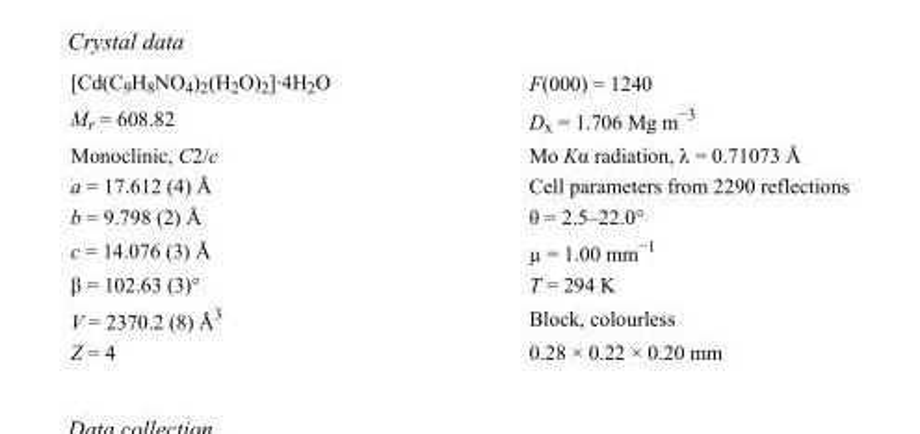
<table><tbody><tr><td>[Cd(C<sub>9</sub>H<sub>8</sub>NO<sub>4</sub>)<sub>2</sub>(H<sub>2</sub>O)<sub>2</sub>]·4H<sub>2</sub>O</td><td>F(000) = 1240</td></tr><tr><td>M<sub>r</sub> = 608.82</td><td>D<sub>x</sub> = 1.706 Mg m<sup>−3</sup></td></tr><tr><td>Monoclinic, C2/c</td><td>Mo Kα radiation, λ = 0.71073 Å</td></tr><tr><td>a = 17.612 (4) Å</td><td>Cell parameters from 2290 reflections</td></tr><tr><td>b = 9.798 (2) Å</td><td>θ = 2.5–22.0°</td></tr><tr><td>c = 14.076 (3) Å</td><td>µ = 1.00 mm<sup>−1</sup></td></tr><tr><td>β = 102.63 (3)°</td><td>T = 294 K</td></tr><tr><td>V = 2370.2 (8) Å<sup>3</sup></td><td>Block, colourless</td></tr><tr><td>Z = 4</td><td>0.28 × 0.22 × 0.20 mm</td></tr></tbody></table>